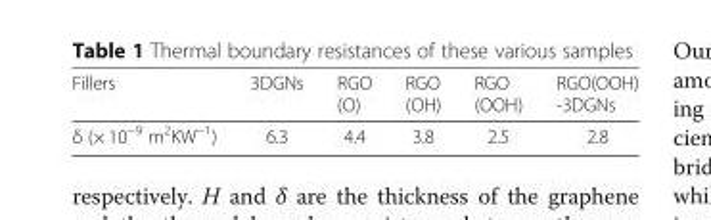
<table><thead><tr><td>Fillers</td><td>3DGNs</td><td>RGO (O)</td><td>RGO (OH)</td><td>RGO (OOH)</td><td>RGO(OOH) -3DGNs</td></tr></thead><tbody><tr><td>δ (× 10<sup>−9</sup> m<sup>2</sup>KW<sup>−1</sup>)</td><td>6.3</td><td>4.4</td><td>3.8</td><td>2.5</td><td>2.8</td></tr></tbody></table>